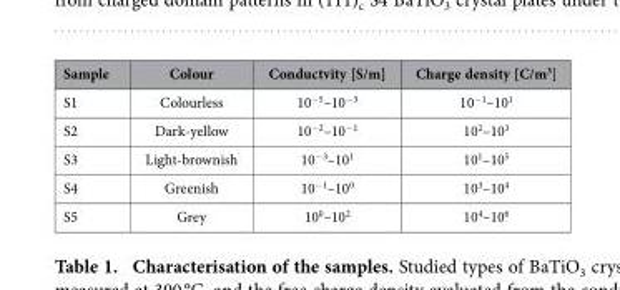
<table><thead><tr><td>Sample</td><td>Colour</td><td>Conductvity [S/m]</td><td>Charge density [C/m<sup>3</sup>]</td></tr></thead><tbody><tr><td>S1</td><td>Colourless</td><td>10<sup>−5</sup>–10<sup>−3</sup></td><td>10<sup>−1</sup>–10<sup>1</sup></td></tr><tr><td>S2</td><td>Dark-yellow</td><td>10<sup>−2</sup>–10<sup>−1</sup></td><td>10<sup>2</sup>–10<sup>3</sup></td></tr><tr><td>S3</td><td>Light-brownish</td><td>10<sup>−3</sup>–10<sup>1</sup></td><td>10<sup>1</sup>–10<sup>5</sup></td></tr><tr><td>S4</td><td>Greenish</td><td>10<sup>−1</sup>–10<sup>0</sup></td><td>10<sup>3</sup>–10<sup>4</sup></td></tr><tr><td>S5</td><td>Grey</td><td>10<sup>0</sup>–10<sup>2</sup></td><td>10<sup>4</sup>–10<sup>6</sup></td></tr></tbody></table>